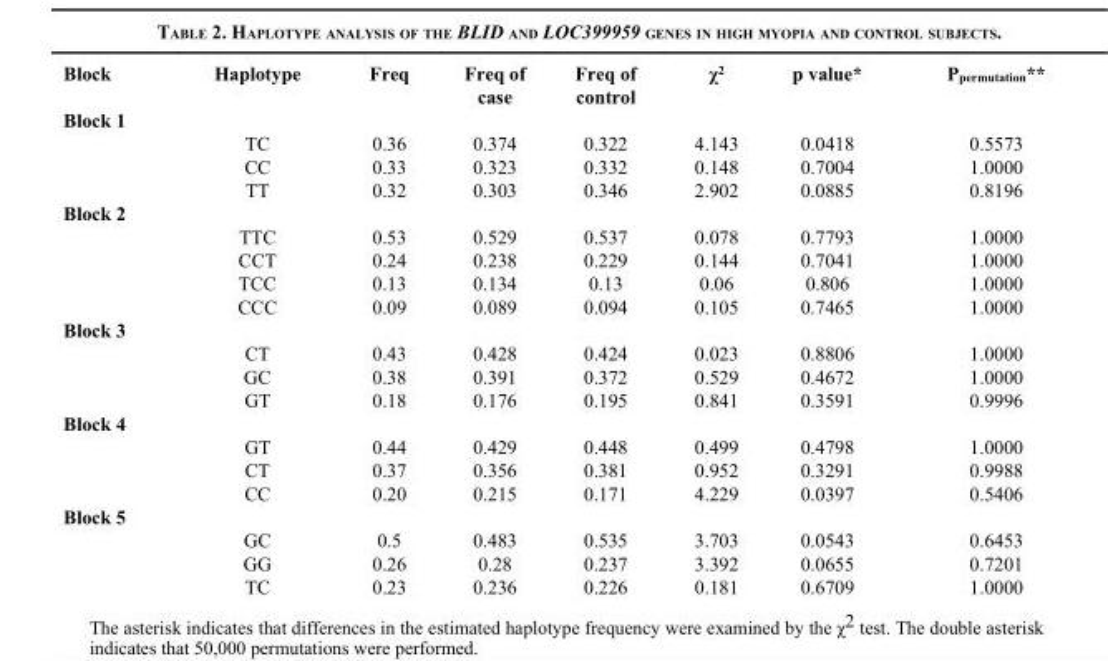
<table><thead><tr><td>Block</td><td>Haplotype</td><td>Freq</td><td>Freq of case</td><td>Freq of control</td><td>χ<sup>2</sup></td><td>p value*</td><td>P<sub>permutation</sub>**</td></tr></thead><tbody><tr><td colspan="8">Block 1</td></tr><tr><td></td><td>TC</td><td>0.36</td><td>0.374</td><td>0.322</td><td>4.143</td><td>0.0418</td><td>0.5573</td></tr><tr><td></td><td>CC</td><td>0.33</td><td>0.323</td><td>0.332</td><td>0.148</td><td>0.7004</td><td>1.0000</td></tr><tr><td></td><td>TT</td><td>0.32</td><td>0.303</td><td>0.346</td><td>2.902</td><td>0.0885</td><td>0.8196</td></tr><tr><td colspan="8">Block 2</td></tr><tr><td></td><td>TTC</td><td>0.53</td><td>0.529</td><td>0.537</td><td>0.078</td><td>0.7793</td><td>1.0000</td></tr><tr><td></td><td>CCT</td><td>0.24</td><td>0.238</td><td>0.229</td><td>0.144</td><td>0.7041</td><td>1.0000</td></tr><tr><td></td><td>TCC</td><td>0.13</td><td>0.134</td><td>0.13</td><td>0.06</td><td>0.806</td><td>1.0000</td></tr><tr><td></td><td>CCC</td><td>0.09</td><td>0.089</td><td>0.094</td><td>0.105</td><td>0.7465</td><td>1.0000</td></tr><tr><td colspan="8">Block 3</td></tr><tr><td></td><td>CT</td><td>0.43</td><td>0.428</td><td>0.424</td><td>0.023</td><td>0.8806</td><td>1.0000</td></tr><tr><td></td><td>GC</td><td>0.38</td><td>0.391</td><td>0.372</td><td>0.529</td><td>0.4672</td><td>1.0000</td></tr><tr><td></td><td>GT</td><td>0.18</td><td>0.176</td><td>0.195</td><td>0.841</td><td>0.3591</td><td>0.9996</td></tr><tr><td colspan="8">Block 4</td></tr><tr><td></td><td>GT</td><td>0.44</td><td>0.429</td><td>0.448</td><td>0.499</td><td>0.4798</td><td>1.0000</td></tr><tr><td></td><td>CT</td><td>0.37</td><td>0.356</td><td>0.381</td><td>0.952</td><td>0.3291</td><td>0.9988</td></tr><tr><td></td><td>CC</td><td>0.20</td><td>0.215</td><td>0.171</td><td>4.229</td><td>0.0397</td><td>0.5406</td></tr><tr><td colspan="8">Block 5</td></tr><tr><td></td><td>GC</td><td>0.5</td><td>0.483</td><td>0.535</td><td>3.703</td><td>0.0543</td><td>0.6453</td></tr><tr><td></td><td>GG</td><td>0.26</td><td>0.28</td><td>0.237</td><td>3.392</td><td>0.0655</td><td>0.7201</td></tr><tr><td></td><td>TC</td><td>0.23</td><td>0.236</td><td>0.226</td><td>0.181</td><td>0.6709</td><td>1.0000</td></tr></tbody></table>